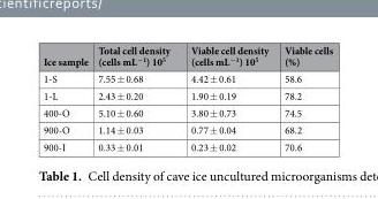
<table><thead><tr><td>Ice sample</td><td>Total cell density (cells mL<sup>−1</sup>) 10<sup>5</sup></td><td>Viable cell density (cells mL<sup>−1</sup>) 10<sup>5</sup></td><td>Viable cells (%)</td></tr></thead><tbody><tr><td>1-S</td><td>7.55 ± 0.68</td><td>4.42 ± 0.61</td><td>58.6</td></tr><tr><td>1-L</td><td>2.43 ± 0.20</td><td>1.90 ± 0.19</td><td>78.2</td></tr><tr><td>400-O</td><td>5.10 ± 0.60</td><td>3.80 ± 0.73</td><td>74.5</td></tr><tr><td>900-O</td><td>1.14 ± 0.03</td><td>0.77 ± 0.04</td><td>68.2</td></tr><tr><td>900-I</td><td>0.33 ± 0.01</td><td>0.23 ± 0.02</td><td>70.6</td></tr></tbody></table>